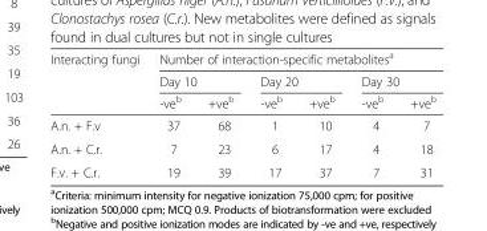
<table><thead><tr><td rowspan="3">Interacting fungi</td><td colspan="6">Number of interaction-specific metabolites<sup>a</sup></td></tr><tr><td colspan="2">Day 10</td><td colspan="2">Day 20</td><td colspan="2">Day 30</td></tr><tr><td>-ve<sup>b</sup></td><td>+ve<sup>b</sup></td><td>-ve<sup>b</sup></td><td>+ve<sup>b</sup></td><td>-ve<sup>b</sup></td><td>+ve<sup>b</sup></td></tr></thead><tbody><tr><td>A.n. + F.v</td><td>37</td><td>68</td><td>1</td><td>10</td><td>4</td><td>7</td></tr><tr><td>A.n. + C.r.</td><td>7</td><td>23</td><td>6</td><td>17</td><td>4</td><td>18</td></tr><tr><td>F.v. + C.r.</td><td>19</td><td>39</td><td>17</td><td>37</td><td>7</td><td>31</td></tr></tbody></table>